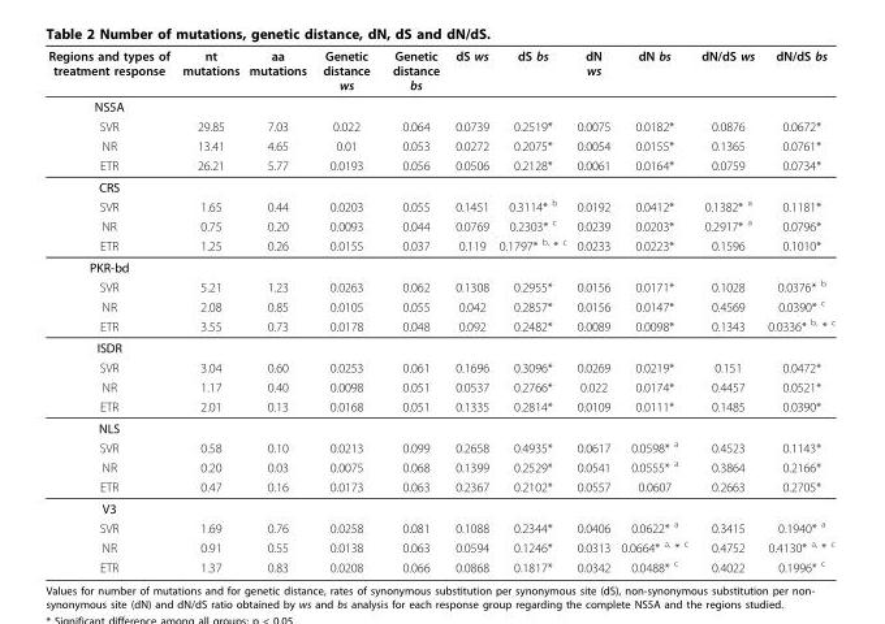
<table><thead><tr><td>Regions and types of treatment response</td><td>nt mutations</td><td>aa mutations</td><td>Genetic distance ws</td><td>Genetic distance bs</td><td>dS ws</td><td>dS bs</td><td>dN ws</td><td>dN bs</td><td>dN/dS ws</td><td>dN/dS bs</td></tr></thead><tbody><tr><td colspan="11">NS5A</td></tr><tr><td>SVR</td><td>29.85</td><td>7.03</td><td>0.022</td><td>0.064</td><td>0.0739</td><td>0.2519*</td><td>0.0075</td><td>0.0182*</td><td>0.0876</td><td>0.0672*</td></tr><tr><td>NR</td><td>13.41</td><td>4.65</td><td>0.01</td><td>0.053</td><td>0.0272</td><td>0.2075*</td><td>0.0054</td><td>0.0155*</td><td>0.1365</td><td>0.0761*</td></tr><tr><td>ETR</td><td>26.21</td><td>5.77</td><td>0.0193</td><td>0.056</td><td>0.0506</td><td>0.2128*</td><td>0.0061</td><td>0.0164*</td><td>0.0759</td><td>0.0734*</td></tr><tr><td colspan="11">CRS</td></tr><tr><td>SVR</td><td>1.65</td><td>0.44</td><td>0.0203</td><td>0.055</td><td>0.1451</td><td>0.3114* <sup>b</sup></td><td>0.0192</td><td>0.0412*</td><td>0.1382* <sup>a</sup></td><td>0.1181*</td></tr><tr><td>NR</td><td>0.75</td><td>0.20</td><td>0.0093</td><td>0.044</td><td>0.0769</td><td>0.2303* <sup>c</sup></td><td>0.0239</td><td>0.0203*</td><td>0.2917* <sup>a</sup></td><td>0.0796*</td></tr><tr><td>ETR</td><td>1.25</td><td>0.26</td><td>0.0155</td><td>0.037</td><td>0.119</td><td>0.1797* <sup>b,</sup> * <sup>c</sup></td><td>0.0233</td><td>0.0223*</td><td>0.1596</td><td>0.1010*</td></tr><tr><td colspan="11">PKR-bd</td></tr><tr><td>SVR</td><td>5.21</td><td>1.23</td><td>0.0263</td><td>0.062</td><td>0.1308</td><td>0.2955*</td><td>0.0156</td><td>0.0171*</td><td>0.1028</td><td>0.0376* <sup>b</sup></td></tr><tr><td>NR</td><td>2.08</td><td>0.85</td><td>0.0105</td><td>0.055</td><td>0.042</td><td>0.2857*</td><td>0.0156</td><td>0.0147*</td><td>0.4569</td><td>0.0390* <sup>c</sup></td></tr><tr><td>ETR</td><td>3.55</td><td>0.73</td><td>0.0178</td><td>0.048</td><td>0.092</td><td>0.2482*</td><td>0.0089</td><td>0.0098*</td><td>0.1343</td><td>0.0336* <sup>b,</sup> * <sup>c</sup></td></tr><tr><td colspan="11">ISDR</td></tr><tr><td>SVR</td><td>3.04</td><td>0.60</td><td>0.0253</td><td>0.061</td><td>0.1696</td><td>0.3096*</td><td>0.0269</td><td>0.0219*</td><td>0.151</td><td>0.0472*</td></tr><tr><td>NR</td><td>1.17</td><td>0.40</td><td>0.0098</td><td>0.051</td><td>0.0537</td><td>0.2766*</td><td>0.022</td><td>0.0174*</td><td>0.4457</td><td>0.0521*</td></tr><tr><td>ETR</td><td>2.01</td><td>0.13</td><td>0.0168</td><td>0.051</td><td>0.1335</td><td>0.2814*</td><td>0.0109</td><td>0.0111*</td><td>0.1485</td><td>0.0390*</td></tr><tr><td colspan="11">NLS</td></tr><tr><td>SVR</td><td>0.58</td><td>0.10</td><td>0.0213</td><td>0.099</td><td>0.2658</td><td>0.4935*</td><td>0.0617</td><td>0.0598* <sup>a</sup></td><td>0.4523</td><td>0.1143*</td></tr><tr><td>NR</td><td>0.20</td><td>0.03</td><td>0.0075</td><td>0.068</td><td>0.1399</td><td>0.2529*</td><td>0.0541</td><td>0.0555* <sup>a</sup></td><td>0.3864</td><td>0.2166*</td></tr><tr><td>ETR</td><td>0.47</td><td>0.16</td><td>0.0173</td><td>0.063</td><td>0.2367</td><td>0.2102*</td><td>0.0557</td><td>0.0607</td><td>0.2663</td><td>0.2705*</td></tr><tr><td colspan="11">V3</td></tr><tr><td>SVR</td><td>1.69</td><td>0.76</td><td>0.0258</td><td>0.081</td><td>0.1088</td><td>0.2344*</td><td>0.0406</td><td>0.0622* <sup>a</sup></td><td>0.3415</td><td>0.1940* <sup>a</sup></td></tr><tr><td>NR</td><td>0.91</td><td>0.55</td><td>0.0138</td><td>0.063</td><td>0.0594</td><td>0.1246*</td><td>0.0313</td><td>0.0664* <sup>a,</sup> * <sup>c</sup></td><td>0.4752</td><td>0.4130* <sup>a,</sup> * <sup>c</sup></td></tr><tr><td>ETR</td><td>1.37</td><td>0.83</td><td>0.0208</td><td>0.066</td><td>0.0868</td><td>0.1817*</td><td>0.0342</td><td>0.0488* <sup>c</sup></td><td>0.4022</td><td>0.1996* <sup>c</sup></td></tr></tbody></table>